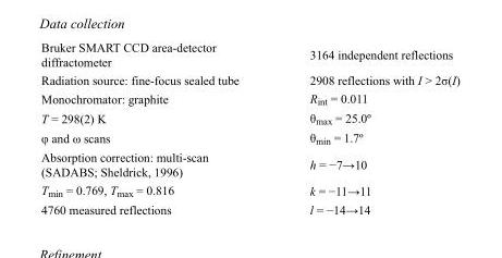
<table><tbody><tr><td>Bruker SMART CCD area-detector diffractometer</td><td>3164 independent reflections</td></tr><tr><td>Radiation source: fine-focus sealed tube</td><td>2908 reflections with I &gt; 2σ(I)</td></tr><tr><td>Monochromator: graphite</td><td>R<sub>int</sub> = 0.011</td></tr><tr><td>T = 298(2) K</td><td>θ<sub>max</sub> = 25.0º</td></tr><tr><td>φ and ω scans</td><td>θ<sub>min</sub> = 1.7º</td></tr><tr><td>Absorption correction: multi-scan (SADABS; Sheldrick, 1996)</td><td>h = −7→10</td></tr><tr><td>T<sub>min</sub> = 0.769, T<sub>max</sub> = 0.816</td><td>k = −11→11</td></tr><tr><td>4760 measured reflections</td><td>l = −14→14</td></tr></tbody></table>